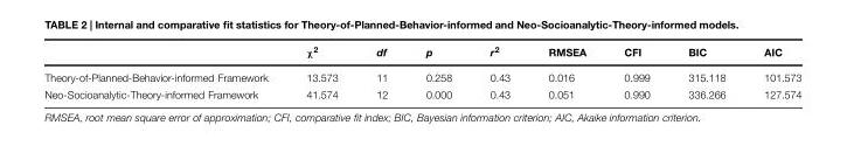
<table><thead><tr><td></td><td>χ<sup>2</sup></td><td>df</td><td>p</td><td>r<sup>2</sup></td><td>RMSEA</td><td>CFI</td><td>BIC</td><td>AIC</td></tr></thead><tbody><tr><td>Theory-of-Planned-Behavior-informed Framework</td><td>13.573</td><td>11</td><td>0.258</td><td>0.43</td><td>0.016</td><td>0.999</td><td>315.118</td><td>101.573</td></tr><tr><td>Neo-Socioanalytic-Theory-informed Framework</td><td>41.574</td><td>12</td><td>0.000</td><td>0.43</td><td>0.051</td><td>0.990</td><td>336.266</td><td>127.574</td></tr></tbody></table>